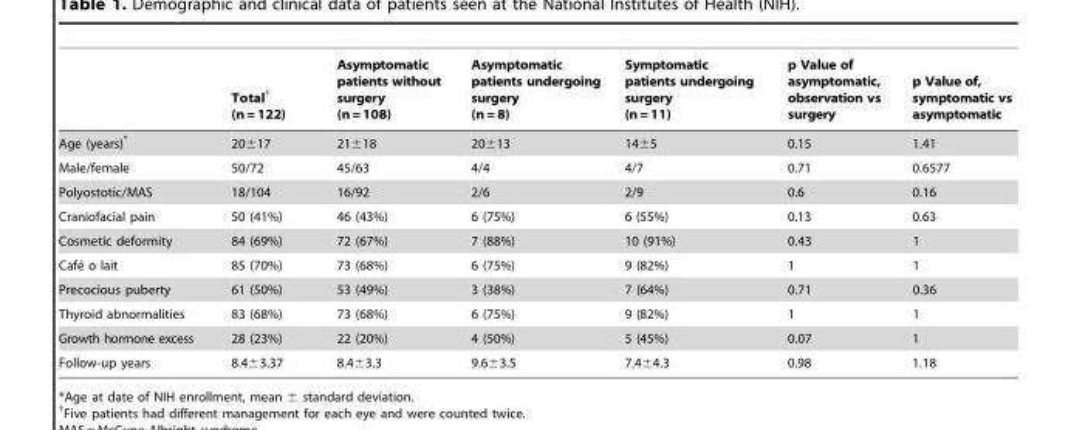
<table><thead><tr><td></td><td>Total† (n = 122)</td><td>Asymptomatic patients without surgery (n = 108)</td><td>Asymptomatic patients undergoing surgery (n = 8)</td><td>Symptomatic patients undergoing surgery (n = 11)</td><td>p Value of asymptomatic, observation vs surgery</td><td>p Value of, symptomatic vs asymptomatic</td></tr></thead><tbody><tr><td>Age (years)*</td><td>20±17</td><td>21±18</td><td>20±13</td><td>14±5</td><td>0.15</td><td>1.41</td></tr><tr><td>Male/female</td><td>50/72</td><td>45/63</td><td>4/4</td><td>4/7</td><td>0.71</td><td>0.6577</td></tr><tr><td>Polyostotic/MAS</td><td>18/104</td><td>16/92</td><td>2/6</td><td>2/9</td><td>0.6</td><td>0.16</td></tr><tr><td>Craniofacial pain</td><td>50 (41%)</td><td>46 (43%)</td><td>6 (75%)</td><td>6 (55%)</td><td>0.13</td><td>0.63</td></tr><tr><td>Cosmetic deformity</td><td>84 (69%)</td><td>72 (67%)</td><td>7 (88%)</td><td>10 (91%)</td><td>0.43</td><td>1</td></tr><tr><td>Cafe´ o lait</td><td>85 (70%)</td><td>73 (68%)</td><td>6 (75%)</td><td>9 (82%)</td><td>1</td><td>1</td></tr><tr><td>Precocious puberty</td><td>61 (50%)</td><td>53 (49%)</td><td>3 (38%)</td><td>7 (64%)</td><td>0.71</td><td>0.36</td></tr><tr><td>Thyroid abnormalities</td><td>83 (68%)</td><td>73 (68%)</td><td>6 (75%)</td><td>9 (82%)</td><td>1</td><td>1</td></tr><tr><td>Growth hormone excess</td><td>28 (23%)</td><td>22 (20%)</td><td>4 (50%)</td><td>5 (45%)</td><td>0.07</td><td>1</td></tr><tr><td>Follow-up years</td><td>8.4±3.37</td><td>8.4±3.3</td><td>9.6±3.5</td><td>7.4±4.3</td><td>0.98</td><td>1.18</td></tr></tbody></table>